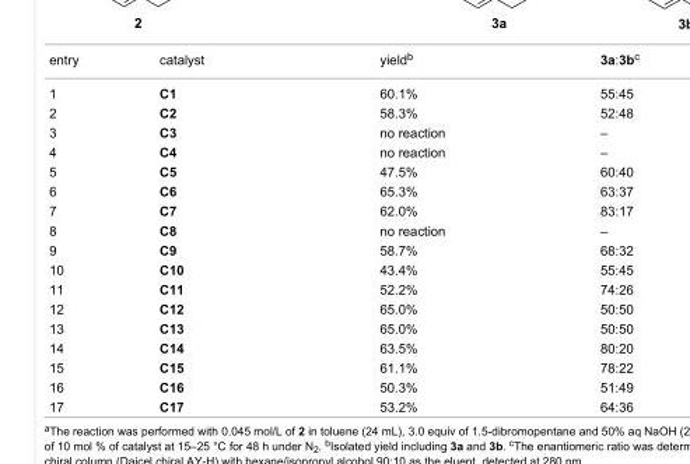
<table><tbody><tr><td>entry</td><td>catalyst</td><td>yield<sup>b</sup></td><td>3a:3b<sup>c</sup></td></tr><tr><td>1</td><td>C1</td><td>60.1%</td><td>55:45</td></tr><tr><td>2</td><td>C2</td><td>58.3%</td><td>52:48</td></tr><tr><td>3</td><td>C3</td><td>no reaction</td><td>–</td></tr><tr><td>4</td><td>C4</td><td>no reaction</td><td>–</td></tr><tr><td>5</td><td>C5</td><td>47.5%</td><td>60:40</td></tr><tr><td>6</td><td>C6</td><td>65.3%</td><td>63:37</td></tr><tr><td>7</td><td>C7</td><td>62.0%</td><td>83:17</td></tr><tr><td>8</td><td>C8</td><td>no reaction</td><td>–</td></tr><tr><td>9</td><td>C9</td><td>58.7%</td><td>68:32</td></tr><tr><td>10</td><td>C10</td><td>43.4%</td><td>55:45</td></tr><tr><td>11</td><td>C11</td><td>52.2%</td><td>74:26</td></tr><tr><td>12</td><td>C12</td><td>65.0%</td><td>50:50</td></tr><tr><td>13</td><td>C13</td><td>65.0%</td><td>50:50</td></tr><tr><td>14</td><td>C14</td><td>63.5%</td><td>80:20</td></tr><tr><td>15</td><td>C15</td><td>61.1%</td><td>78:22</td></tr><tr><td>16</td><td>C16</td><td>50.3%</td><td>51:49</td></tr><tr><td>17</td><td>C17</td><td>53.2%</td><td>64:36</td></tr></tbody></table>